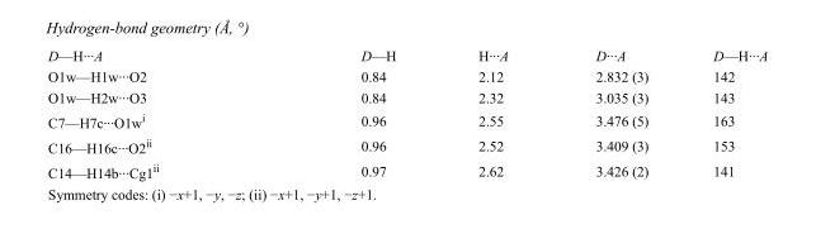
<table><tbody><tr><td>D—H···A</td><td>D—H</td><td>H···A</td><td>D···A</td><td>D—H···A</td></tr><tr><td>O1w—H1w···O2</td><td>0.84</td><td>2.12</td><td>2.832 (3)</td><td>142</td></tr><tr><td>O1w—H2w···O3</td><td>0.84</td><td>2.32</td><td>3.035 (3)</td><td>143</td></tr><tr><td>C7—H7c···O1w<sup>i</sup></td><td>0.96</td><td>2.55</td><td>3.476 (5)</td><td>163</td></tr><tr><td>C16—H16c···O2<sup>ii</sup></td><td>0.96</td><td>2.52</td><td>3.409 (3)</td><td>153</td></tr><tr><td>C14—H14b···Cg1<sup>ii</sup></td><td>0.97</td><td>2.62</td><td>3.426 (2)</td><td>141</td></tr></tbody></table>